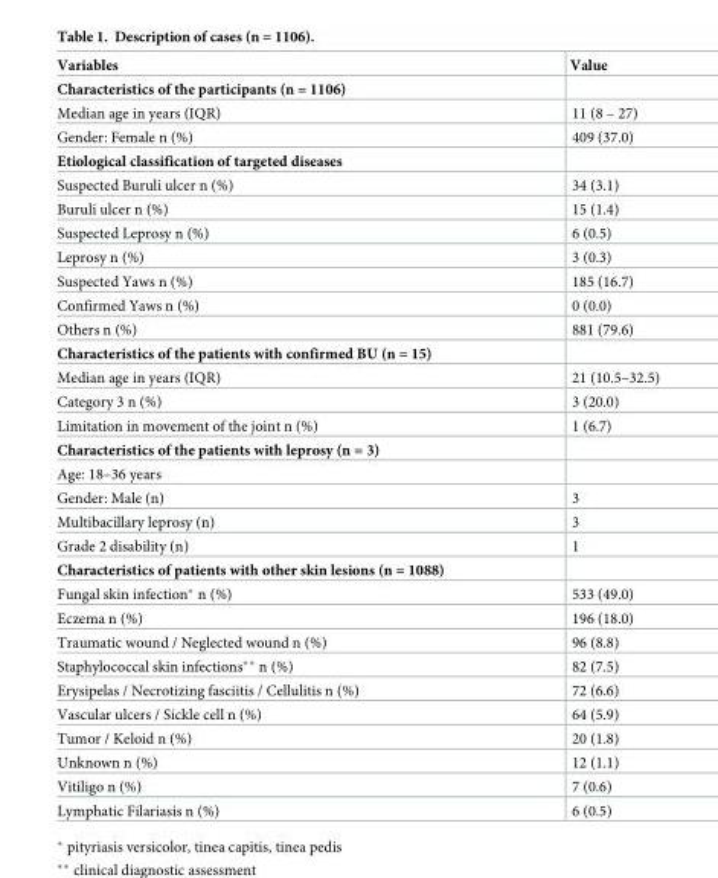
<table><thead><tr><td>Variables</td><td>Value</td></tr></thead><tbody><tr><td colspan="2">Characteristics of the participants (n = 1106)</td></tr><tr><td>Median age in years (IQR)</td><td>11 (8 – 27)</td></tr><tr><td>Gender: Female n (%)</td><td>409 (37.0)</td></tr><tr><td colspan="2">Etiological classification of targeted diseases</td></tr><tr><td>Suspected Buruli ulcer n (%)</td><td>34 (3.1)</td></tr><tr><td>Buruli ulcer n (%)</td><td>15 (1.4)</td></tr><tr><td>Suspected Leprosy n (%)</td><td>6 (0.5)</td></tr><tr><td>Leprosy n (%)</td><td>3 (0.3)</td></tr><tr><td>Suspected Yaws n (%)</td><td>185 (16.7)</td></tr><tr><td>Confirmed Yaws n (%)</td><td>0 (0.0)</td></tr><tr><td>Others n (%)</td><td>881 (79.6)</td></tr><tr><td colspan="2">Characteristics of the patients with confirmed BU (n = 15)</td></tr><tr><td>Median age in years (IQR)</td><td>21 (10.5–32.5)</td></tr><tr><td>Category 3 n (%)</td><td>3 (20.0)</td></tr><tr><td>Limitation in movement of the joint n (%)</td><td>1 (6.7)</td></tr><tr><td colspan="2">Characteristics of the patients with leprosy (n = 3)</td></tr><tr><td colspan="2">Age: 18–36 years</td></tr><tr><td>Gender: Male (n)</td><td>3</td></tr><tr><td>Multibacillary leprosy (n)</td><td>3</td></tr><tr><td>Grade 2 disability (n)</td><td>1</td></tr><tr><td colspan="2">Characteristics of patients with other skin lesions (n = 1088)</td></tr><tr><td>Fungal skin infection* n (%)</td><td>533 (49.0)</td></tr><tr><td>Eczema n (%)</td><td>196 (18.0)</td></tr><tr><td>Traumatic wound / Neglected wound n (%)</td><td>96 (8.8)</td></tr><tr><td>Staphylococcal skin infections** n (%)</td><td>82 (7.5)</td></tr><tr><td>Erysipelas / Necrotizing fasciitis / Cellulitis n (%)</td><td>72 (6.6)</td></tr><tr><td>Vascular ulcers / Sickle cell n (%)</td><td>64 (5.9)</td></tr><tr><td>Tumor / Keloid n (%)</td><td>20 (1.8)</td></tr><tr><td>Unknown n (%)</td><td>12 (1.1)</td></tr><tr><td>Vitiligo n (%)</td><td>7 (0.6)</td></tr><tr><td>Lymphatic Filariasis n (%)</td><td>6 (0.5)</td></tr></tbody></table>